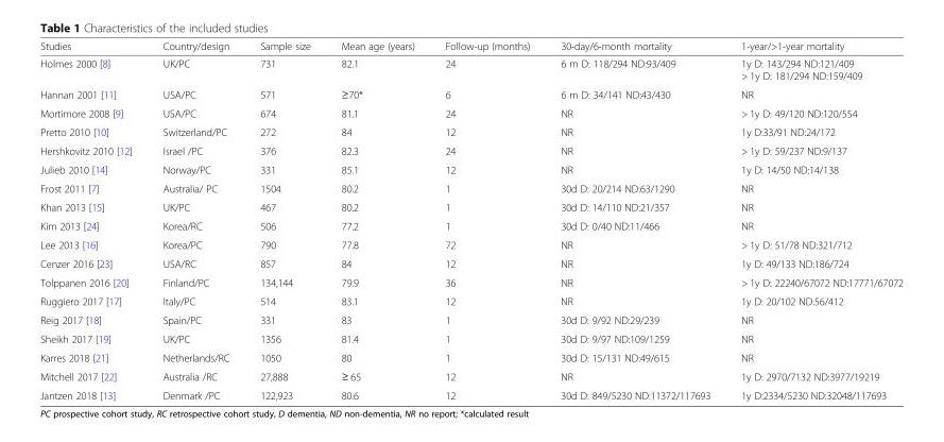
<table><thead><tr><td>Studies</td><td>Country/design</td><td>Sample size</td><td>Mean age (years)</td><td>Follow-up (months)</td><td>30-day/6-month mortality</td><td>1-year/&gt;1-year mortality</td></tr></thead><tbody><tr><td>Holmes 2000 [8]</td><td>UK/PC</td><td>731</td><td>82.1</td><td>24</td><td>6 m D: 118/294 ND:93/409</td><td>1y D: 143/294 ND:121/409 &gt; 1y D: 181/294 ND:159/409</td></tr><tr><td>Hannan 2001 [11]</td><td>USA/PC</td><td>571</td><td>≥70*</td><td>6</td><td>6 m D: 34/141 ND:43/430</td><td>NR</td></tr><tr><td>Mortimore 2008 [9]</td><td>USA/PC</td><td>674</td><td>81.1</td><td>24</td><td>NR</td><td>&gt; 1y D: 49/120 ND:120/554</td></tr><tr><td>Pretto 2010 [10]</td><td>Switzerland/PC</td><td>272</td><td>84</td><td>12</td><td>NR</td><td>1y D:33/91 ND:24/172</td></tr><tr><td>Hershkovitz 2010 [12]</td><td>Israel /PC</td><td>376</td><td>82.3</td><td>24</td><td>NR</td><td>&gt; 1y D: 59/237 ND:9/137</td></tr><tr><td>Julieb 2010 [14]</td><td>Norway/PC</td><td>331</td><td>85.1</td><td>12</td><td>NR</td><td>1y D: 14/50 ND:14/138</td></tr><tr><td>Frost 2011 [7]</td><td>Australia/ PC</td><td>1504</td><td>80.2</td><td>1</td><td>30d D: 20/214 ND:63/1290</td><td>NR</td></tr><tr><td>Khan 2013 [15]</td><td>UK/PC</td><td>467</td><td>80.2</td><td>1</td><td>30d D: 14/110 ND:21/357</td><td>NR</td></tr><tr><td>Kim 2013 [24]</td><td>Korea/RC</td><td>506</td><td>77.2</td><td>1</td><td>30d D: 0/40 ND:11/466</td><td>NR</td></tr><tr><td>Lee 2013 [16]</td><td>Korea/PC</td><td>790</td><td>77.8</td><td>72</td><td>NR</td><td>&gt; 1y D: 51/78 ND:321/712</td></tr><tr><td>Cenzer 2016 [23]</td><td>USA/RC</td><td>857</td><td>84</td><td>12</td><td>NR</td><td>1y D: 49/133 ND:186/724</td></tr><tr><td>Tolppanen 2016 [20]</td><td>Finland/PC</td><td>134,144</td><td>79.9</td><td>36</td><td>NR</td><td>&gt; 1y D: 22240/67072 ND:17771/67072</td></tr><tr><td>Ruggiero 2017 [17]</td><td>Italy/PC</td><td>514</td><td>83.1</td><td>12</td><td>NR</td><td>1y D: 20/102 ND:56/412</td></tr><tr><td>Reig 2017 [18]</td><td>Spain/PC</td><td>331</td><td>83</td><td>1</td><td>30d D: 9/92 ND:29/239</td><td>NR</td></tr><tr><td>Sheikh 2017 [19]</td><td>UK/PC</td><td>1356</td><td>81.4</td><td>1</td><td>30d D: 9/97 ND:109/1259</td><td>NR</td></tr><tr><td>Karres 2018 [21]</td><td>Netherlands/RC</td><td>1050</td><td>80</td><td>1</td><td>30d D: 15/131 ND:49/615</td><td>NR</td></tr><tr><td>Mitchell 2017 [22]</td><td>Australia /RC</td><td>27,888</td><td>≥ 65</td><td>12</td><td>NR</td><td>1y D: 2970/7132 ND:3977/19219</td></tr><tr><td>Jantzen 2018 [13]</td><td>Denmark /PC</td><td>122,923</td><td>80.6</td><td>12</td><td>30d D: 849/5230 ND:11372/117693</td><td>1y D:2334/5230 ND:32048/117693</td></tr></tbody></table>